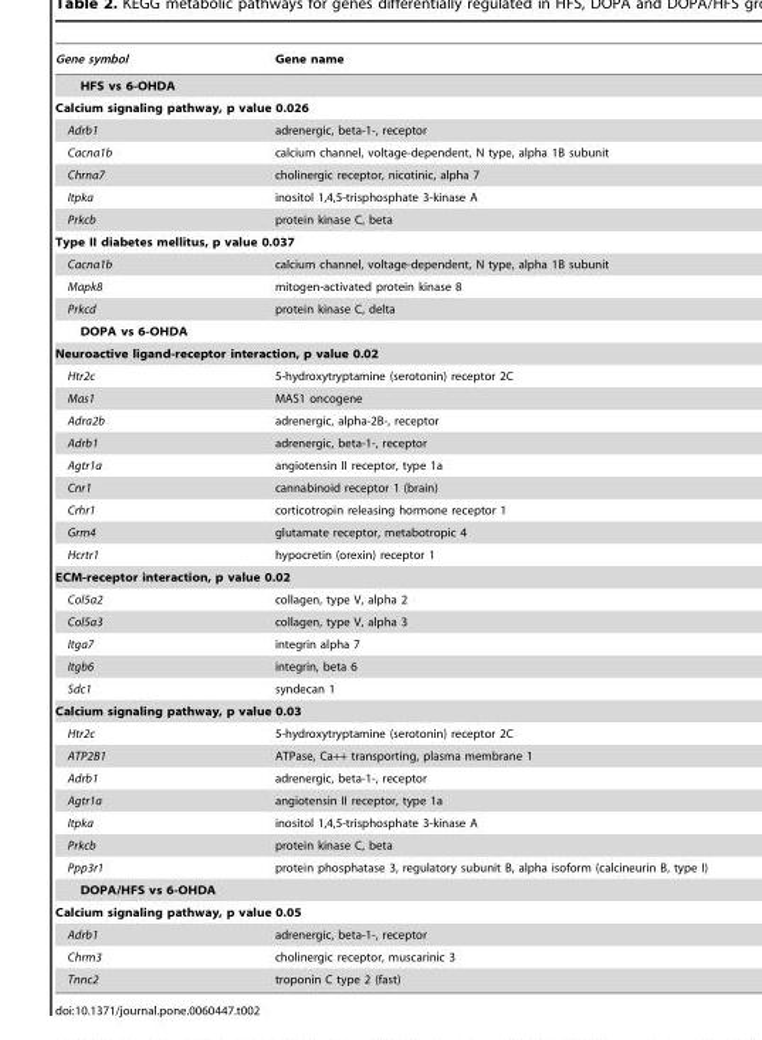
<table><thead><tr><td>Gene symbol</td><td>Gene name</td></tr></thead><tbody><tr><td colspan="2">HFS vs 6-OHDA</td></tr><tr><td colspan="2">Calcium signaling pathway, p value 0.026</td></tr><tr><td>Adrb1</td><td>adrenergic, beta-1-, receptor</td></tr><tr><td>Cacna1b</td><td>calcium channel, voltage-dependent, N type, alpha 1B subunit</td></tr><tr><td>Chrna7</td><td>cholinergic receptor, nicotinic, alpha 7</td></tr><tr><td>Itpka</td><td>inositol 1,4,5-trisphosphate 3-kinase A</td></tr><tr><td>Prkcb</td><td>protein kinase C, beta</td></tr><tr><td colspan="2">Type II diabetes mellitus, p value 0.037</td></tr><tr><td>Cacna1b</td><td>calcium channel, voltage-dependent, N type, alpha 1B subunit</td></tr><tr><td>Mapk8</td><td>mitogen-activated protein kinase 8</td></tr><tr><td>Prkcd</td><td>protein kinase C, delta</td></tr><tr><td colspan="2">DOPA vs 6-OHDA</td></tr><tr><td colspan="2">Neuroactive ligand-receptor interaction, p value 0.02</td></tr><tr><td>Htr2c</td><td>5-hydroxytryptamine (serotonin) receptor 2C</td></tr><tr><td>Mas1</td><td>MAS1 oncogene</td></tr><tr><td>Adra2b</td><td>adrenergic, alpha-2B-, receptor</td></tr><tr><td>Adrb1</td><td>adrenergic, beta-1-, receptor</td></tr><tr><td>Agtr1a</td><td>angiotensin II receptor, type 1a</td></tr><tr><td>Cnr1</td><td>cannabinoid receptor 1 (brain)</td></tr><tr><td>Crhr1</td><td>corticotropin releasing hormone receptor 1</td></tr><tr><td>Grm4</td><td>glutamate receptor, metabotropic 4</td></tr><tr><td>Hcrtr1</td><td>hypocretin (orexin) receptor 1</td></tr><tr><td colspan="2">ECM-receptor interaction, p value 0.02</td></tr><tr><td>Col5a2</td><td>collagen, type V, alpha 2</td></tr><tr><td>Col5a3</td><td>collagen, type V, alpha 3</td></tr><tr><td>Itga7</td><td>integrin alpha 7</td></tr><tr><td>Itgb6</td><td>integrin, beta 6</td></tr><tr><td>Sdc1</td><td>syndecan 1</td></tr><tr><td colspan="2">Calcium signaling pathway, p value 0.03</td></tr><tr><td>Htr2c</td><td>5-hydroxytryptamine (serotonin) receptor 2C</td></tr><tr><td>ATP2B1</td><td>ATPase, Ca++ transporting, plasma membrane 1</td></tr><tr><td>Adrb1</td><td>adrenergic, beta-1-, receptor</td></tr><tr><td>Agtr1a</td><td>angiotensin II receptor, type 1a</td></tr><tr><td>Itpka</td><td>inositol 1,4,5-trisphosphate 3-kinase A</td></tr><tr><td>Prkcb</td><td>protein kinase C, beta</td></tr><tr><td>Ppp3r1</td><td>protein phosphatase 3, regulatory subunit B, alpha isoform (calcineurin B, type I)</td></tr><tr><td colspan="2">DOPA/HFS vs 6-OHDA</td></tr><tr><td colspan="2">Calcium signaling pathway, p value 0.05</td></tr><tr><td>Adrb1</td><td>adrenergic, beta-1-, receptor</td></tr><tr><td>Chrm3</td><td>cholinergic receptor, muscarinic 3</td></tr><tr><td>Tnnc2</td><td>troponin C type 2 (fast)</td></tr></tbody></table>